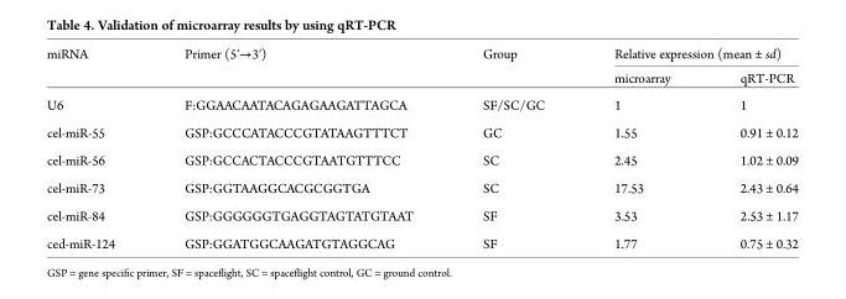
<table><thead><tr><td rowspan="2">miRNA</td><td rowspan="2">Primer (5′→3′)</td><td rowspan="2">Group</td><td colspan="2">Relative expression (mean ± sd)</td></tr><tr><td>microarray</td><td>qRT-PCR</td></tr></thead><tbody><tr><td>U6</td><td>F:GGAACAATACAGAGAAGATTAGCA</td><td>SF/SC/GC</td><td>1</td><td>1</td></tr><tr><td>cel-miR-55</td><td>GSP:GCCCATACCCGTATAAGTTTCT</td><td>GC</td><td>1.55</td><td>0.91 ± 0.12</td></tr><tr><td>cel-miR-56</td><td>GSP:GCCACTACCCGTAATGTTTCC</td><td>SC</td><td>2.45</td><td>1.02 ± 0.09</td></tr><tr><td>cel-miR-73</td><td>GSP:GGTAAGGCACGCGGTGA</td><td>SC</td><td>17.53</td><td>2.43 ± 0.64</td></tr><tr><td>cel-miR-84</td><td>GSP:GGGGGGTGAGGTAGTATGTAAT</td><td>SF</td><td>3.53</td><td>2.53 ± 1.17</td></tr><tr><td>ced-miR-124</td><td>GSP:GGATGGCAAGATGTAGGCAG</td><td>SF</td><td>1.77</td><td>0.75 ± 0.32</td></tr></tbody></table>